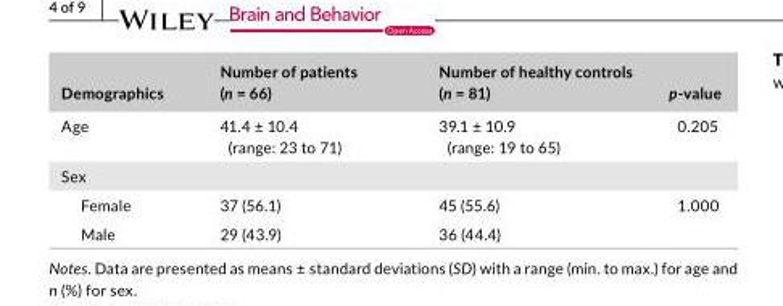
<table><thead><tr><td>Demographics</td><td>Number of patients (n = 66)</td><td>Number of healthy controls (n = 81)</td><td>p- value</td></tr></thead><tbody><tr><td>Age</td><td>41.4 ± 10.4 (range: 23 to 71)</td><td>39.1 ± 10.9 (range: 19 to 65)</td><td>0.205</td></tr><tr><td colspan="4">Sex</td></tr><tr><td>Female</td><td>37 (56.1)</td><td>45 (55.6)</td><td rowspan="2">1.000</td></tr><tr><td>Male</td><td>29 (43.9)</td><td>36 (44.4)</td></tr></tbody></table>